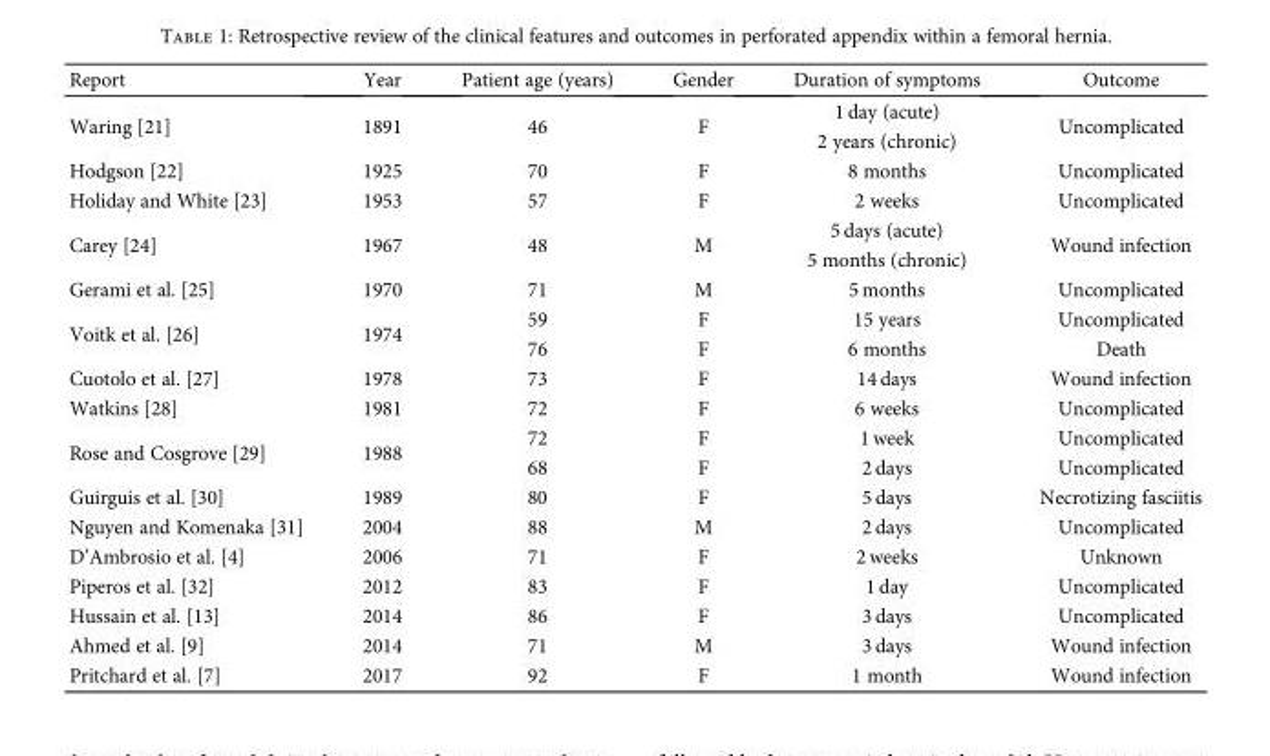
<table><thead><tr><td>Report</td><td>Year</td><td>Patient age (years)</td><td>Gender</td><td>Duration of symptoms</td><td>Outcome</td></tr></thead><tbody><tr><td rowspan="2">Waring [21]</td><td rowspan="2">1891</td><td rowspan="2">46</td><td rowspan="2">F</td><td>1 day (acute)</td><td rowspan="2">Uncomplicated</td></tr><tr><td>2 years (chronic)</td></tr><tr><td>Hodgson [22]</td><td>1925</td><td>70</td><td>F</td><td>8 months</td><td>Uncomplicated</td></tr><tr><td>Holiday and White [23]</td><td>1953</td><td>57</td><td>F</td><td>2 weeks</td><td>Uncomplicated</td></tr><tr><td rowspan="2">Carey [24]</td><td rowspan="2">1967</td><td rowspan="2">48</td><td rowspan="2">M</td><td>5 days (acute)</td><td rowspan="2">Wound infection</td></tr><tr><td>5 months (chronic)</td></tr><tr><td>Gerami et al. [25]</td><td>1970</td><td>71</td><td>M</td><td>5 months</td><td>Uncomplicated</td></tr><tr><td rowspan="2">Voitk et al. [26]</td><td rowspan="2">1974</td><td>59</td><td>F</td><td>15 years</td><td>Uncomplicated</td></tr><tr><td>76</td><td>F</td><td>6 months</td><td>Death</td></tr><tr><td>Cuotolo et al. [27]</td><td>1978</td><td>73</td><td>F</td><td>14 days</td><td>Wound infection</td></tr><tr><td>Watkins [28]</td><td>1981</td><td>72</td><td>F</td><td>6 weeks</td><td>Uncomplicated</td></tr><tr><td rowspan="2">Rose and Cosgrove [29]</td><td rowspan="2">1988</td><td>72</td><td>F</td><td>1 week</td><td>Uncomplicated</td></tr><tr><td>68</td><td>F</td><td>2 days</td><td>Uncomplicated</td></tr><tr><td>Guirguis et al. [30]</td><td>1989</td><td>80</td><td>F</td><td>5 days</td><td>Necrotizing fasciitis</td></tr><tr><td>Nguyen and Komenaka [31]</td><td>2004</td><td>88</td><td>M</td><td>2 days</td><td>Uncomplicated</td></tr><tr><td>D’Ambrosio et al. [4]</td><td>2006</td><td>71</td><td>F</td><td>2 weeks</td><td>Unknown</td></tr><tr><td>Piperos et al. [32]</td><td>2012</td><td>83</td><td>F</td><td>1 day</td><td>Uncomplicated</td></tr><tr><td>Hussain et al. [13]</td><td>2014</td><td>86</td><td>F</td><td>3 days</td><td>Uncomplicated</td></tr><tr><td>Ahmed et al. [9]</td><td>2014</td><td>71</td><td>M</td><td>3 days</td><td>Wound infection</td></tr><tr><td>Pritchard et al. [7]</td><td>2017</td><td>92</td><td>F</td><td>1 month</td><td>Wound infection</td></tr></tbody></table>